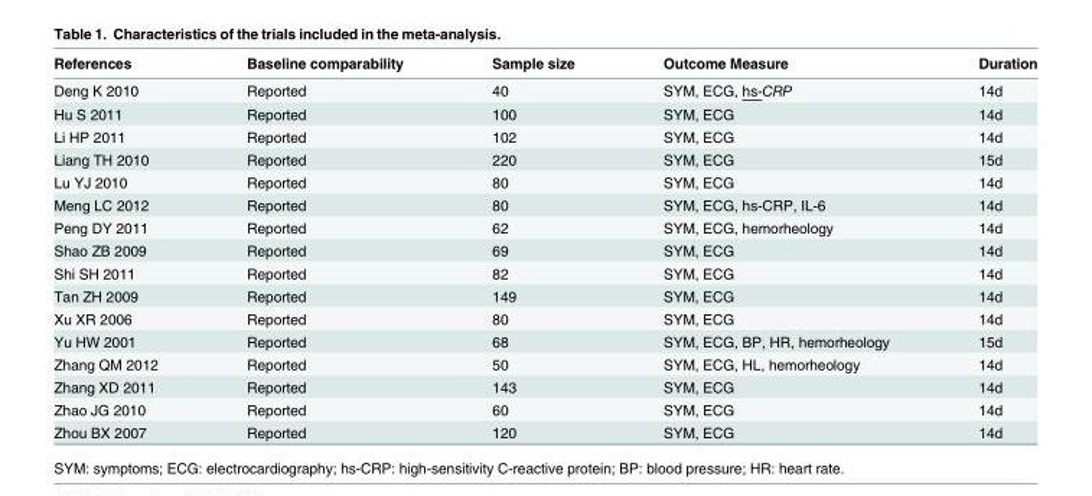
<table><thead><tr><td>References</td><td>Baseline comparability</td><td>Sample size</td><td>Outcome Measure</td><td>Duration</td></tr></thead><tbody><tr><td>Deng K 2010</td><td>Reported</td><td>40</td><td>SYM, ECG, hs-CRP</td><td>14d</td></tr><tr><td>Hu S 2011</td><td>Reported</td><td>100</td><td>SYM, ECG</td><td>14d</td></tr><tr><td>Li HP 2011</td><td>Reported</td><td>102</td><td>SYM, ECG</td><td>14d</td></tr><tr><td>Liang TH 2010</td><td>Reported</td><td>220</td><td>SYM, ECG</td><td>15d</td></tr><tr><td>Lu YJ 2010</td><td>Reported</td><td>80</td><td>SYM, ECG</td><td>14d</td></tr><tr><td>Meng LC 2012</td><td>Reported</td><td>80</td><td>SYM, ECG, hs-CRP, IL-6</td><td>14d</td></tr><tr><td>Peng DY 2011</td><td>Reported</td><td>62</td><td>SYM, ECG, hemorheology</td><td>14d</td></tr><tr><td>Shao ZB 2009</td><td>Reported</td><td>69</td><td>SYM, ECG</td><td>14d</td></tr><tr><td>Shi SH 2011</td><td>Reported</td><td>82</td><td>SYM, ECG</td><td>14d</td></tr><tr><td>Tan ZH 2009</td><td>Reported</td><td>149</td><td>SYM, ECG</td><td>14d</td></tr><tr><td>Xu XR 2006</td><td>Reported</td><td>80</td><td>SYM, ECG</td><td>14d</td></tr><tr><td>Yu HW 2001</td><td>Reported</td><td>68</td><td>SYM, ECG, BP, HR, hemorheology</td><td>15d</td></tr><tr><td>Zhang QM 2012</td><td>Reported</td><td>50</td><td>SYM, ECG, HL, hemorheology</td><td>14d</td></tr><tr><td>Zhang XD 2011</td><td>Reported</td><td>143</td><td>SYM, ECG</td><td>14d</td></tr><tr><td>Zhao JG 2010</td><td>Reported</td><td>60</td><td>SYM, ECG</td><td>14d</td></tr><tr><td>Zhou BX 2007</td><td>Reported</td><td>120</td><td>SYM, ECG</td><td>14d</td></tr></tbody></table>